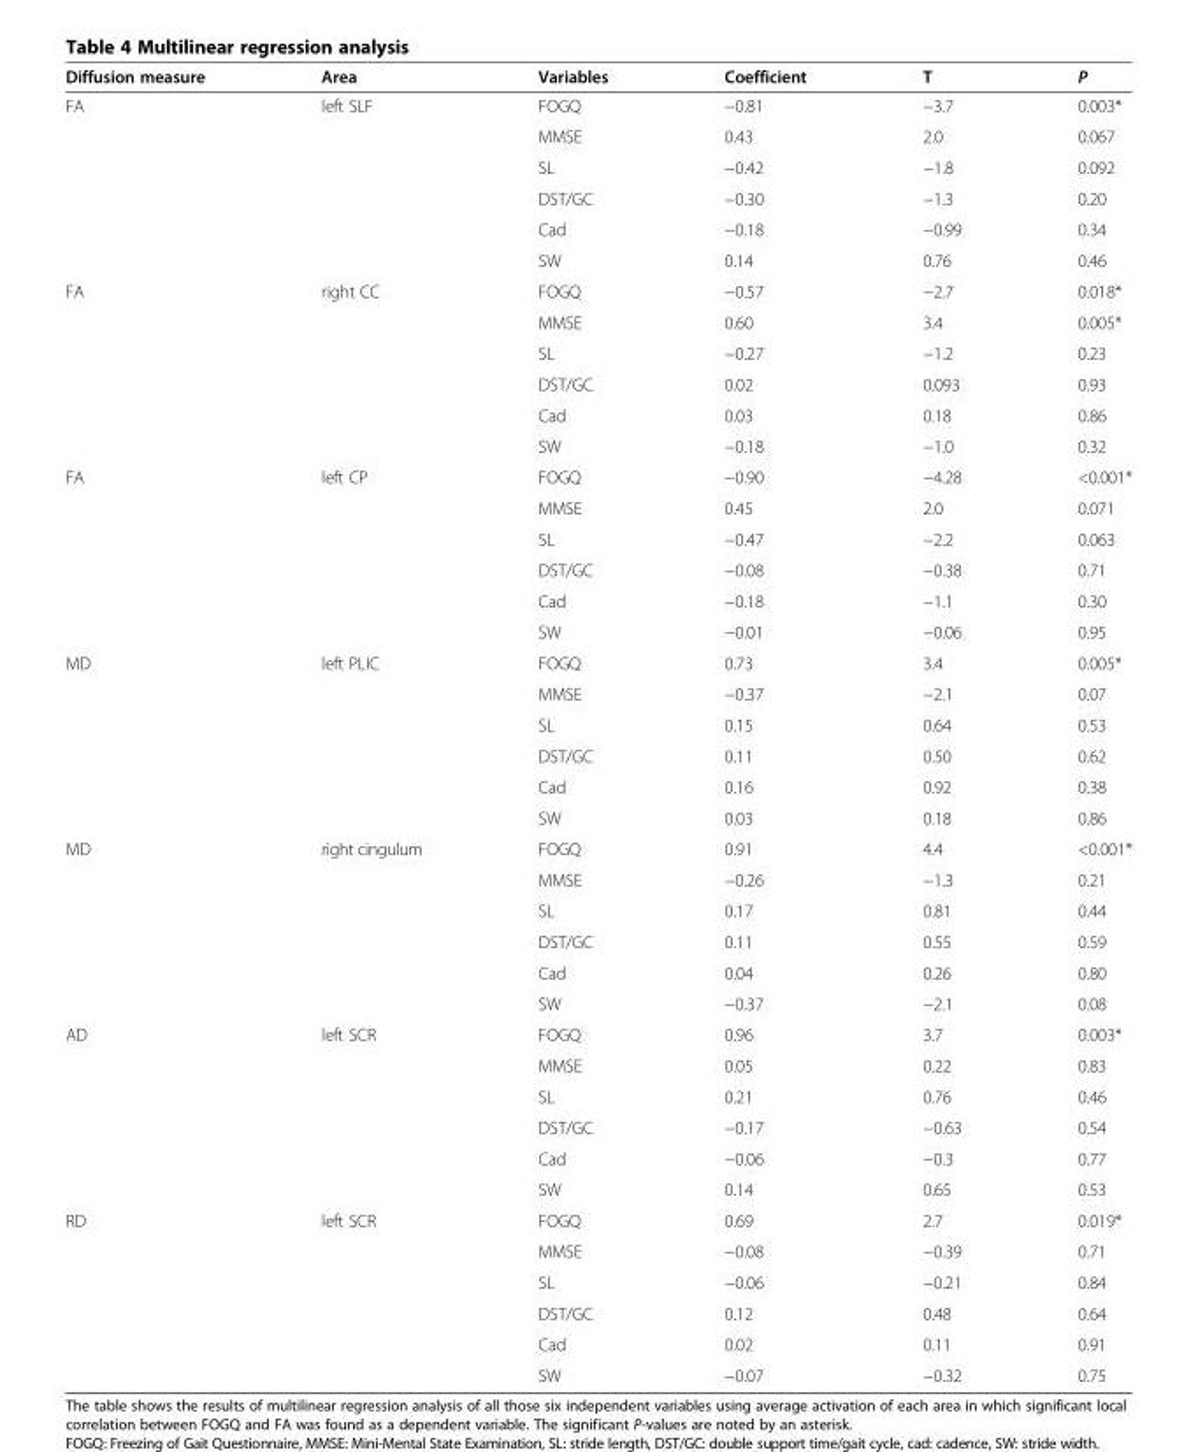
<table><thead><tr><td>Diffusion measure</td><td>Area</td><td>Variables</td><td>Coefficient</td><td>T</td><td>P</td></tr></thead><tbody><tr><td rowspan="6">FA</td><td rowspan="6">left SLF</td><td>FOGQ</td><td>−0.81</td><td>−3.7</td><td>0.003*</td></tr><tr><td>MMSE</td><td>0.43</td><td>2.0</td><td>0.067</td></tr><tr><td>SL</td><td>−0.42</td><td>−1.8</td><td>0.092</td></tr><tr><td>DST/GC</td><td>−0.30</td><td>−1.3</td><td>0.20</td></tr><tr><td>Cad</td><td>−0.18</td><td>−0.99</td><td>0.34</td></tr><tr><td>SW</td><td>0.14</td><td>0.76</td><td>0.46</td></tr><tr><td rowspan="6">FA</td><td rowspan="6">right CC</td><td>FOGQ</td><td>−0.57</td><td>−2.7</td><td>0.018*</td></tr><tr><td>MMSE</td><td>0.60</td><td>3.4</td><td>0.005*</td></tr><tr><td>SL</td><td>−0.27</td><td>−1.2</td><td>0.23</td></tr><tr><td>DST/GC</td><td>0.02</td><td>0.093</td><td>0.93</td></tr><tr><td>Cad</td><td>0.03</td><td>0.18</td><td>0.86</td></tr><tr><td>SW</td><td>−0.18</td><td>−1.0</td><td>0.32</td></tr><tr><td rowspan="6">FA</td><td rowspan="6">left CP</td><td>FOGQ</td><td>−0.90</td><td>−4.28</td><td>&lt;0.001*</td></tr><tr><td>MMSE</td><td>0.45</td><td>2.0</td><td>0.071</td></tr><tr><td>SL</td><td>−0.47</td><td>−2.2</td><td>0.063</td></tr><tr><td>DST/GC</td><td>−0.08</td><td>−0.38</td><td>0.71</td></tr><tr><td>Cad</td><td>−0.18</td><td>−1.1</td><td>0.30</td></tr><tr><td>SW</td><td>−0.01</td><td>−0.06</td><td>0.95</td></tr><tr><td rowspan="6">MD</td><td rowspan="6">left PLIC</td><td>FOGQ</td><td>0.73</td><td>3.4</td><td>0.005*</td></tr><tr><td>MMSE</td><td>−0.37</td><td>−2.1</td><td>0.07</td></tr><tr><td>SL</td><td>0.15</td><td>0.64</td><td>0.53</td></tr><tr><td>DST/GC</td><td>0.11</td><td>0.50</td><td>0.62</td></tr><tr><td>Cad</td><td>0.16</td><td>0.92</td><td>0.38</td></tr><tr><td>SW</td><td>0.03</td><td>0.18</td><td>0.86</td></tr><tr><td rowspan="6">MD</td><td rowspan="6">right cingulum</td><td>FOGQ</td><td>0.91</td><td>4.4</td><td>&lt;0.001*</td></tr><tr><td>MMSE</td><td>−0.26</td><td>−1.3</td><td>0.21</td></tr><tr><td>SL</td><td>0.17</td><td>0.81</td><td>0.44</td></tr><tr><td>DST/GC</td><td>0.11</td><td>0.55</td><td>0.59</td></tr><tr><td>Cad</td><td>0.04</td><td>0.26</td><td>0.80</td></tr><tr><td>SW</td><td>−0.37</td><td>−2.1</td><td>0.08</td></tr><tr><td rowspan="6">AD</td><td rowspan="6">left SCR</td><td>FOGQ</td><td>0.96</td><td>3.7</td><td>0.003*</td></tr><tr><td>MMSE</td><td>0.05</td><td>0.22</td><td>0.83</td></tr><tr><td>SL</td><td>0.21</td><td>0.76</td><td>0.46</td></tr><tr><td>DST/GC</td><td>−0.17</td><td>−0.63</td><td>0.54</td></tr><tr><td>Cad</td><td>−0.06</td><td>−0.3</td><td>0.77</td></tr><tr><td>SW</td><td>0.14</td><td>0.65</td><td>0.53</td></tr><tr><td rowspan="6">RD</td><td rowspan="6">left SCR</td><td>FOGQ</td><td>0.69</td><td>2.7</td><td>0.019*</td></tr><tr><td>MMSE</td><td>−0.08</td><td>−0.39</td><td>0.71</td></tr><tr><td>SL</td><td>−0.06</td><td>−0.21</td><td>0.84</td></tr><tr><td>DST/GC</td><td>0.12</td><td>0.48</td><td>0.64</td></tr><tr><td>Cad</td><td>0.02</td><td>0.11</td><td>0.91</td></tr><tr><td>SW</td><td>−0.07</td><td>−0.32</td><td>0.75</td></tr></tbody></table>